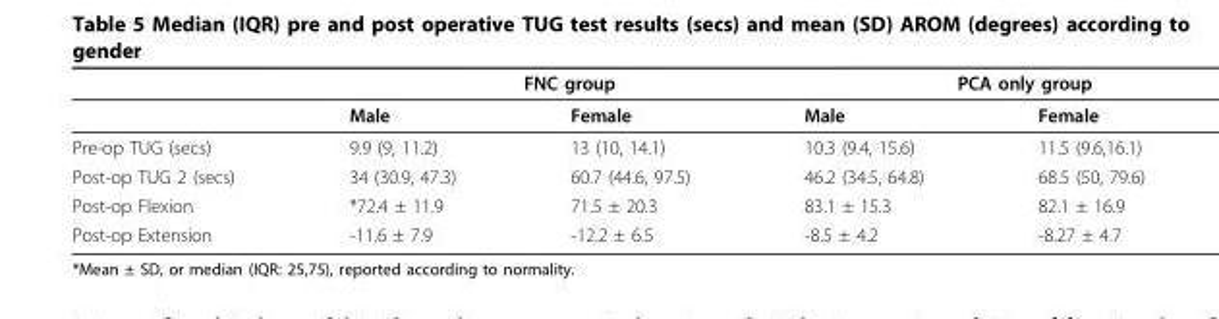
<table><thead><tr><td rowspan="2"></td><td colspan="2">FNC group</td><td colspan="2">PCA only group</td></tr><tr><td>Male</td><td>Female</td><td>Male</td><td>Female</td></tr></thead><tbody><tr><td>Pre-op TUG (secs)</td><td>9.9 (9, 11.2)</td><td>13 (10, 14.1)</td><td>10.3 (9.4, 15.6)</td><td>11.5 (9.6,16.1)</td></tr><tr><td>Post-op TUG 2 (secs)</td><td>34 (30.9, 47.3)</td><td>60.7 (44.6, 97.5)</td><td>46.2 (34.5, 64.8)</td><td>68.5 (50, 79.6)</td></tr><tr><td>Post-op Flexion</td><td>*72.4 ± 11.9</td><td>71.5 ± 20.3</td><td>83.1 ± 15.3</td><td>82.1 ± 16.9</td></tr><tr><td>Post-op Extension</td><td>-11.6 ± 7.9</td><td>-12.2 ± 6.5</td><td>-8.5 ± 4.2</td><td>-8.27 ± 4.7</td></tr></tbody></table>